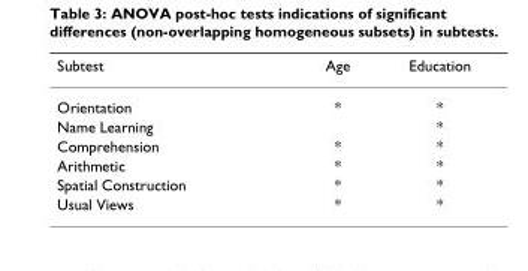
<table><thead><tr><td>Subtest</td><td>Age</td><td>Education</td></tr></thead><tbody><tr><td>Orientation</td><td>*</td><td>*</td></tr><tr><td>Name Learning</td><td></td><td>*</td></tr><tr><td>Comprehension</td><td>*</td><td>*</td></tr><tr><td>Arithmetic</td><td>*</td><td>*</td></tr><tr><td>Spatial Construction</td><td>*</td><td>*</td></tr><tr><td>Usual Views</td><td>*</td><td>*</td></tr></tbody></table>